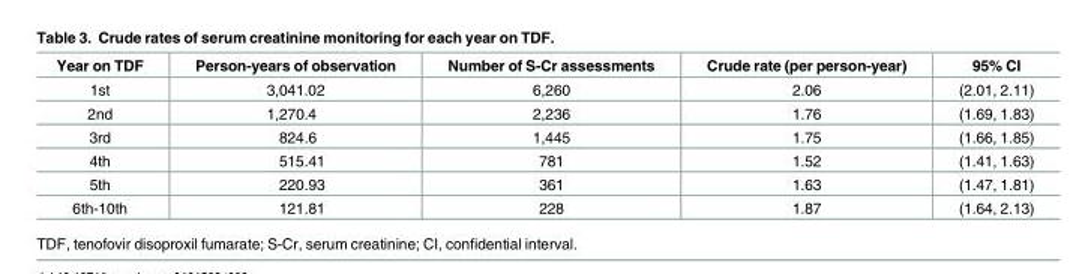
<table><thead><tr><td>Year on TDF</td><td>Person-years of observation</td><td>Number of S-Cr assessments</td><td>Crude rate (per person-year)</td><td>95% CI</td></tr></thead><tbody><tr><td>1st</td><td>3,041.02</td><td>6,260</td><td>2.06</td><td>(2.01, 2.11)</td></tr><tr><td>2nd</td><td>1,270.4</td><td>2,236</td><td>1.76</td><td>(1.69, 1.83)</td></tr><tr><td>3rd</td><td>824.6</td><td>1,445</td><td>1.75</td><td>(1.66, 1.85)</td></tr><tr><td>4th</td><td>515.41</td><td>781</td><td>1.52</td><td>(1.41, 1.63)</td></tr><tr><td>5th</td><td>220.93</td><td>361</td><td>1.63</td><td>(1.47, 1.81)</td></tr><tr><td>6th-10th</td><td>121.81</td><td>228</td><td>1.87</td><td>(1.64, 2.13)</td></tr></tbody></table>